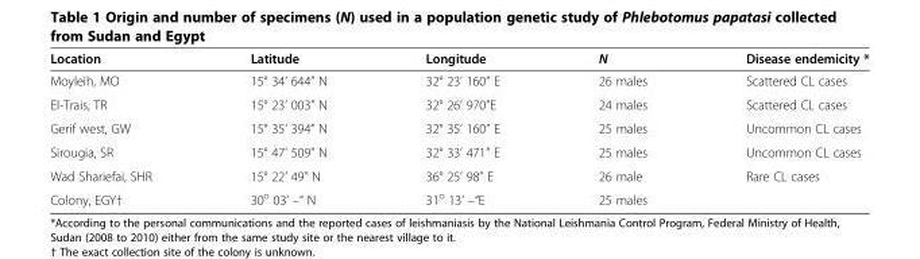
<table><thead><tr><td>Location</td><td>Latitude</td><td>Longitude</td><td>N</td><td>Disease endemicity *</td></tr></thead><tbody><tr><td>Moyleih, MO</td><td>15° 34’ 644” N</td><td>32° 23’ 160” E</td><td>26 males</td><td>Scattered CL cases</td></tr><tr><td>El-Trais, TR</td><td>15° 23’ 003” N</td><td>32° 26’ 970”E</td><td>24 males</td><td>Scattered CL cases</td></tr><tr><td>Gerif west, GW</td><td>15° 35’ 394” N</td><td>32° 35‘ 160” E</td><td>25 males</td><td>Uncommon CL cases</td></tr><tr><td>Sirougia, SR</td><td>15° 47‘ 509” N</td><td>32° 33’ 471” E</td><td>25 males</td><td>Uncommon CL cases</td></tr><tr><td>Wad Shariefai, SHR</td><td>15° 22’ 49” N</td><td>36° 25’ 98” E</td><td>26 male</td><td>Rare CL cases</td></tr><tr><td>Colony, EGY†</td><td>30ο 03’ –“ N</td><td>31ο 13’ –“E</td><td>25 males</td><td></td></tr></tbody></table>